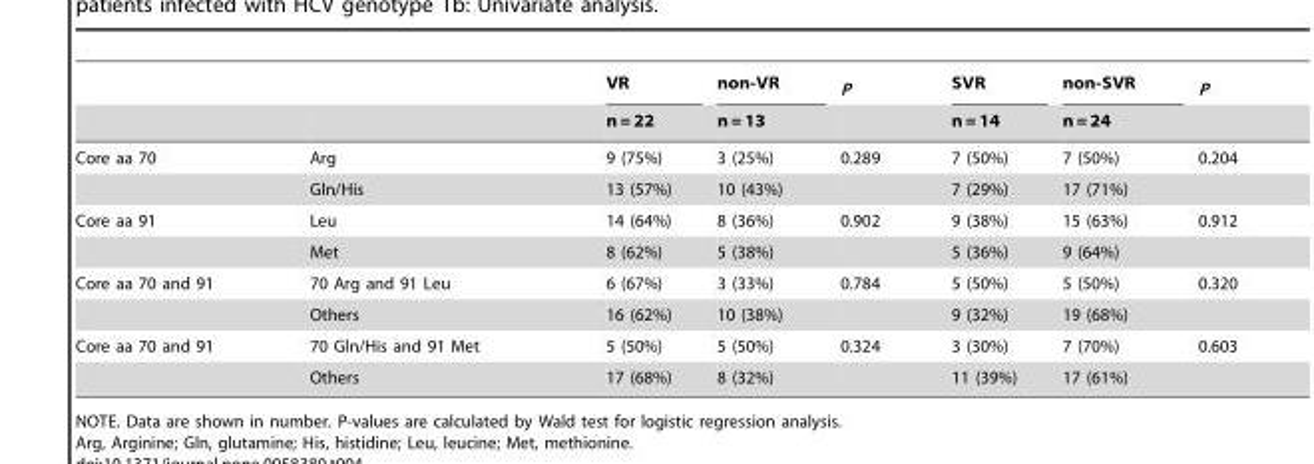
<table><thead><tr><td rowspan="2"></td><td rowspan="2"></td><td rowspan="2">VR n = 22</td><td rowspan="2">non-VR n = 13</td><td rowspan="2">P</td><td rowspan="2">SVR n = 14</td><td rowspan="2">non-SVR n = 24</td><td rowspan="2">P</td></tr><tr></tr></thead><tbody><tr><td rowspan="2">Core aa 70</td><td>Arg</td><td>9 (75%)</td><td>3 (25%)</td><td>0.289</td><td>7 (50%)</td><td>7 (50%)</td><td>0.204</td></tr><tr><td>Gln/His</td><td>13 (57%)</td><td>10 (43%)</td><td></td><td>7 (29%)</td><td>17 (71%)</td><td></td></tr><tr><td rowspan="2">Core aa 91</td><td>Leu</td><td>14 (64%)</td><td>8 (36%)</td><td>0.902</td><td>9 (38%)</td><td>15 (63%)</td><td>0.912</td></tr><tr><td>Met</td><td>8 (62%)</td><td>5 (38%)</td><td></td><td>5 (36%)</td><td>9 (64%)</td><td></td></tr><tr><td rowspan="2">Core aa 70 and 91</td><td>70 Arg and 91 Leu</td><td>6 (67%)</td><td>3 (33%)</td><td>0.784</td><td>5 (50%)</td><td>5 (50%)</td><td>0.320</td></tr><tr><td>Others</td><td>16 (62%)</td><td>10 (38%)</td><td></td><td>9 (32%)</td><td>19 (68%)</td><td></td></tr><tr><td rowspan="2">Core aa 70 and 91</td><td>70 Gln/His and 91 Met</td><td>5 (50%)</td><td>5 (50%)</td><td>0.324</td><td>3 (30%)</td><td>7 (70%)</td><td>0.603</td></tr><tr><td>Others</td><td>17 (68%)</td><td>8 (32%)</td><td></td><td>11 (39%)</td><td>17 (61%)</td><td></td></tr></tbody></table>